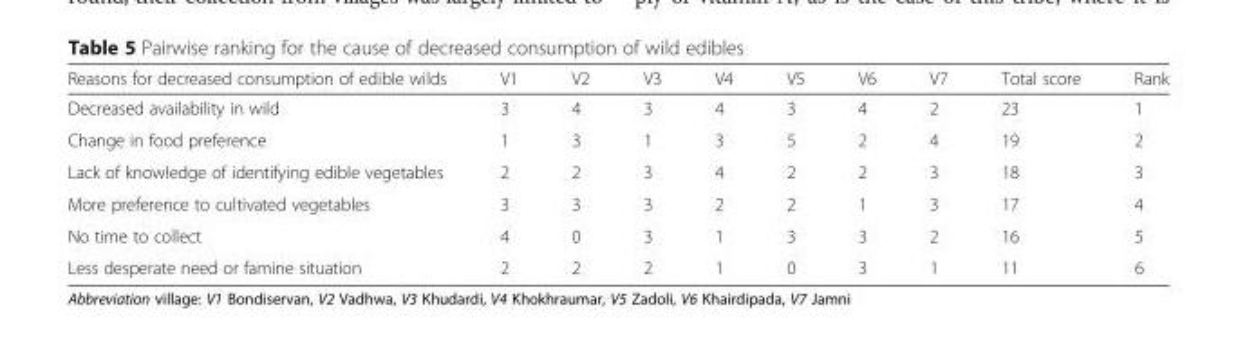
<table><thead><tr><td>Reasons for decreased consumption of edible wilds</td><td>V1</td><td>V2</td><td>V3</td><td>V4</td><td>V5</td><td>V6</td><td>V7</td><td>Total score</td><td>Rank</td></tr></thead><tbody><tr><td>Decreased availability in wild</td><td>3</td><td>4</td><td>3</td><td>4</td><td>3</td><td>4</td><td>2</td><td>23</td><td>1</td></tr><tr><td>Change in food preference</td><td>1</td><td>3</td><td>1</td><td>3</td><td>5</td><td>2</td><td>4</td><td>19</td><td>2</td></tr><tr><td>Lack of knowledge of identifying edible vegetables</td><td>2</td><td>2</td><td>3</td><td>4</td><td>2</td><td>2</td><td>3</td><td>18</td><td>3</td></tr><tr><td>More preference to cultivated vegetables</td><td>3</td><td>3</td><td>3</td><td>2</td><td>2</td><td>1</td><td>3</td><td>17</td><td>4</td></tr><tr><td>No time to collect</td><td>4</td><td>0</td><td>3</td><td>1</td><td>3</td><td>3</td><td>2</td><td>16</td><td>5</td></tr><tr><td>Less desperate need or famine situation</td><td>2</td><td>2</td><td>2</td><td>1</td><td>0</td><td>3</td><td>1</td><td>11</td><td>6</td></tr></tbody></table>